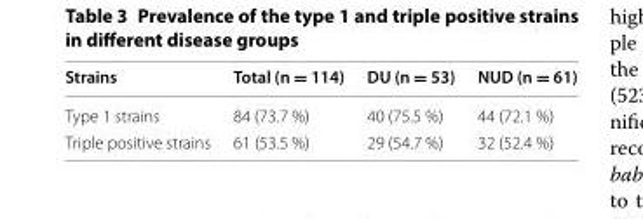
<table><thead><tr><td>Strains</td><td>Total (n = 114)</td><td>DU (n = 53)</td><td>NUD (n = 61)</td></tr></thead><tbody><tr><td>Type 1 strains</td><td>84 (73.7 %)</td><td>40 (75.5 %)</td><td>44 (72.1 %)</td></tr><tr><td>Triple positive strains</td><td>61 (53.5 %)</td><td>29 (54.7 %)</td><td>32 (52.4 %)</td></tr></tbody></table>